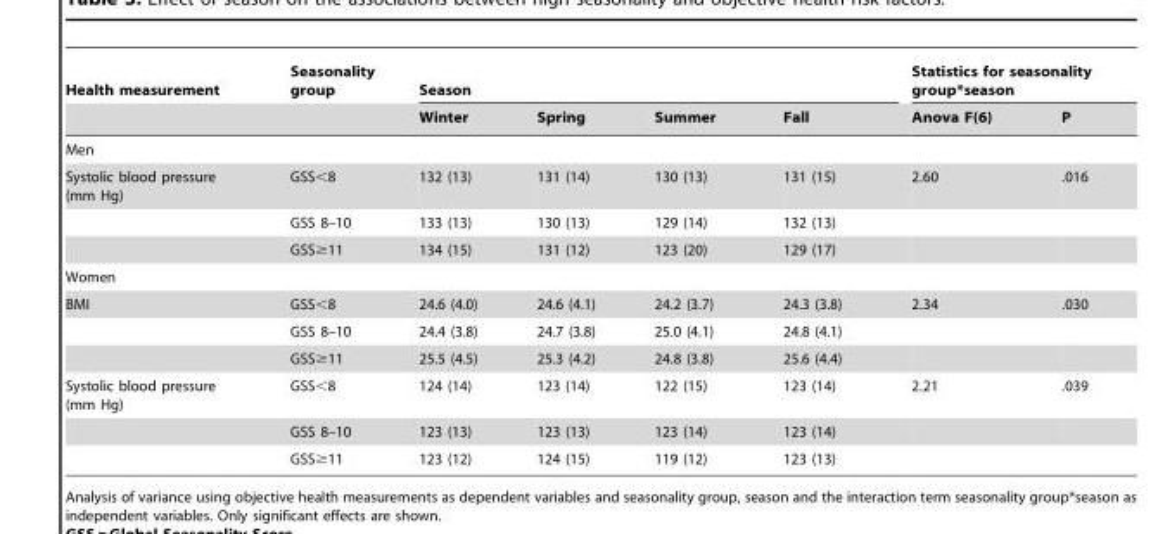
<table><thead><tr><td rowspan="2">Health measurement</td><td rowspan="2">Seasonality group</td><td colspan="4">Season</td><td colspan="2">Statistics for seasonality group*season</td></tr><tr><td>Winter</td><td>Spring</td><td>Summer</td><td>Fall</td><td>Anova F(6)</td><td>P</td></tr></thead><tbody><tr><td colspan="8">Men</td></tr><tr><td rowspan="3">Systolic blood pressure (mm Hg)</td><td>GSS&lt;8</td><td>132 (13)</td><td>131 (14)</td><td>130 (13)</td><td>131 (15)</td><td>2.60</td><td>.016</td></tr><tr><td>GSS 8–10</td><td>133 (13)</td><td>130 (13)</td><td>129 (14)</td><td>132 (13)</td><td></td><td></td></tr><tr><td>GSS≥11</td><td>134 (15)</td><td>131 (12)</td><td>123 (20)</td><td>129 (17)</td><td></td><td></td></tr><tr><td colspan="8">Women</td></tr><tr><td rowspan="3">BMI</td><td>GSS&lt;8</td><td>24.6 (4.0)</td><td>24.6 (4.1)</td><td>24.2 (3.7)</td><td>24.3 (3.8)</td><td>2.34</td><td>.030</td></tr><tr><td>GSS 8–10</td><td>24.4 (3.8)</td><td>24.7 (3.8)</td><td>25.0 (4.1)</td><td>24.8 (4.1)</td><td></td><td></td></tr><tr><td>GSS≥11</td><td>25.5 (4.5)</td><td>25.3 (4.2)</td><td>24.8 (3.8)</td><td>25.6 (4.4)</td><td></td><td></td></tr><tr><td rowspan="3">Systolic blood pressure (mm Hg)</td><td>GSS&lt;8</td><td>124 (14)</td><td>123 (14)</td><td>122 (15)</td><td>123 (14)</td><td>2.21</td><td>.039</td></tr><tr><td>GSS 8–10</td><td>123 (13)</td><td>123 (13)</td><td>123 (14)</td><td>123 (14)</td><td></td><td></td></tr><tr><td>GSS≥11</td><td>123 (12)</td><td>124 (15)</td><td>119 (12)</td><td>123 (13)</td><td></td><td></td></tr></tbody></table>